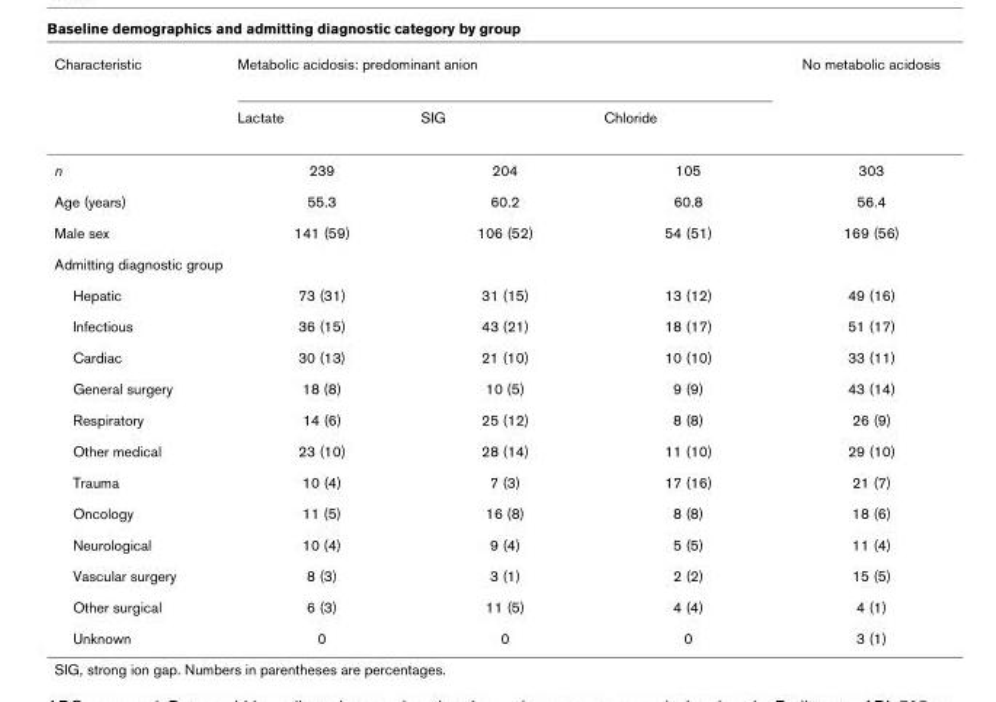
<table><thead><tr><td rowspan="2">Characteristic</td><td colspan="3">Metabolic acidosis: predominant anion</td><td rowspan="2">No metabolic acidosis</td></tr><tr><td>Lactate</td><td>SIG</td><td>Chloride</td></tr></thead><tbody><tr><td>n</td><td>239</td><td>204</td><td>105</td><td>303</td></tr><tr><td>Age (years)</td><td>55.3</td><td>60.2</td><td>60.8</td><td>56.4</td></tr><tr><td>Male sex</td><td>141 (59)</td><td>106 (52)</td><td>54 (51)</td><td>169 (56)</td></tr><tr><td colspan="5">Admitting diagnostic group</td></tr><tr><td>Hepatic</td><td>73 (31)</td><td>31 (15)</td><td>13 (12)</td><td>49 (16)</td></tr><tr><td>Infectious</td><td>36 (15)</td><td>43 (21)</td><td>18 (17)</td><td>51 (17)</td></tr><tr><td>Cardiac</td><td>30 (13)</td><td>21 (10)</td><td>10 (10)</td><td>33 (11)</td></tr><tr><td>General surgery</td><td>18 (8)</td><td>10 (5)</td><td>9 (9)</td><td>43 (14)</td></tr><tr><td>Respiratory</td><td>14 (6)</td><td>25 (12)</td><td>8 (8)</td><td>26 (9)</td></tr><tr><td>Other medical</td><td>23 (10)</td><td>28 (14)</td><td>11 (10)</td><td>29 (10)</td></tr><tr><td>Trauma</td><td>10 (4)</td><td>7 (3)</td><td>17 (16)</td><td>21 (7)</td></tr><tr><td>Oncology</td><td>11 (5)</td><td>16 (8)</td><td>8 (8)</td><td>18 (6)</td></tr><tr><td>Neurological</td><td>10 (4)</td><td>9 (4)</td><td>5 (5)</td><td>11 (4)</td></tr><tr><td>Vascular surgery</td><td>8 (3)</td><td>3 (1)</td><td>2 (2)</td><td>15 (5)</td></tr><tr><td>Other surgical</td><td>6 (3)</td><td>11 (5)</td><td>4 (4)</td><td>4 (1)</td></tr><tr><td>Unknown</td><td>0</td><td>0</td><td>0</td><td>3 (1)</td></tr></tbody></table>